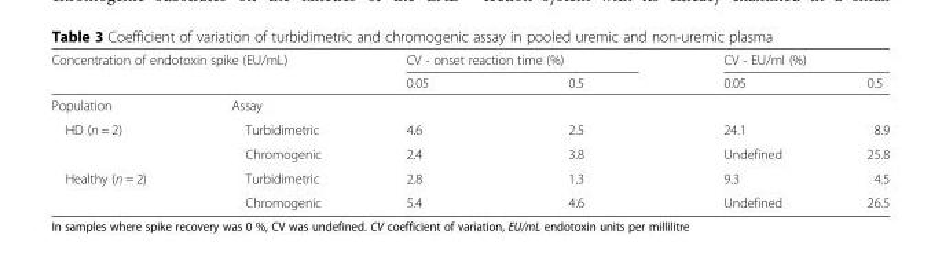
<table><thead><tr><td rowspan="2" colspan="2">Concentration of endotoxin spike (EU/mL)</td><td colspan="2">CV - onset reaction time (%)</td><td colspan="2">CV - EU/ml (%)</td></tr><tr><td>0.05</td><td>0.5</td><td>0.05</td><td>0.5</td></tr><tr><td>Population</td><td>Assay</td><td colspan="4"></td></tr></thead><tbody><tr><td rowspan="2">HD (n = 2)</td><td>Turbidimetric</td><td>4.6</td><td>2.5</td><td>24.1</td><td>8.9</td></tr><tr><td>Chromogenic</td><td>2.4</td><td>3.8</td><td>Undefined</td><td>25.8</td></tr><tr><td rowspan="2">Healthy (n = 2)</td><td>Turbidimetric</td><td>2.8</td><td>1.3</td><td>9.3</td><td>4.5</td></tr><tr><td>Chromogenic</td><td>5.4</td><td>4.6</td><td>Undefined</td><td>26.5</td></tr></tbody></table>